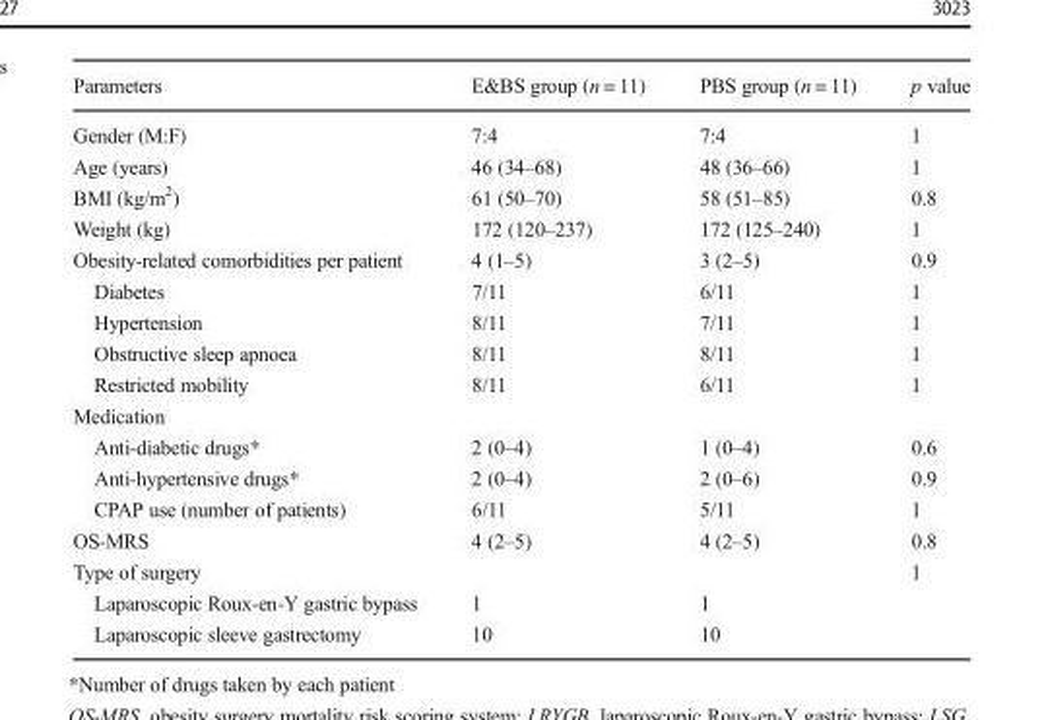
<table><thead><tr><td>Parameters</td><td>E&amp;BS group (n = 11)</td><td>PBS group (n = 11)</td><td>p value</td></tr></thead><tbody><tr><td>Gender (M:F)</td><td>7:4</td><td>7:4</td><td>1</td></tr><tr><td>Age (years)</td><td>46 (34–68)</td><td>48 (36–66)</td><td>1</td></tr><tr><td>BMI (kg/m<sup>2</sup>)</td><td>61 (50–70)</td><td>58 (51–85)</td><td>0.8</td></tr><tr><td>Weight (kg)</td><td>172 (120–237)</td><td>172 (125–240)</td><td>1</td></tr><tr><td>Obesity-related comorbidities per patient</td><td>4 (1–5)</td><td>3 (2–5)</td><td>0.9</td></tr><tr><td>Diabetes</td><td>7/11</td><td>6/11</td><td>1</td></tr><tr><td>Hypertension</td><td>8/11</td><td>7/11</td><td>1</td></tr><tr><td>Obstructive sleep apnoea</td><td>8/11</td><td>8/11</td><td>1</td></tr><tr><td>Restricted mobility</td><td>8/11</td><td>6/11</td><td>1</td></tr><tr><td colspan="4">Medication</td></tr><tr><td>Anti-diabetic drugs*</td><td>2 (0–4)</td><td>1 (0–4)</td><td>0.6</td></tr><tr><td>Anti-hypertensive drugs*</td><td>2 (0–4)</td><td>2 (0–6)</td><td>0.9</td></tr><tr><td>CPAP use (number of patients)</td><td>6/11</td><td>5/11</td><td>1</td></tr><tr><td>OS-MRS</td><td>4 (2–5)</td><td>4 (2–5)</td><td>0.8</td></tr><tr><td>Type of surgery</td><td></td><td></td><td>1</td></tr><tr><td>Laparoscopic Roux-en-Y gastric bypass</td><td>1</td><td>1</td><td></td></tr><tr><td>Laparoscopic sleeve gastrectomy</td><td>10</td><td>10</td><td></td></tr></tbody></table>